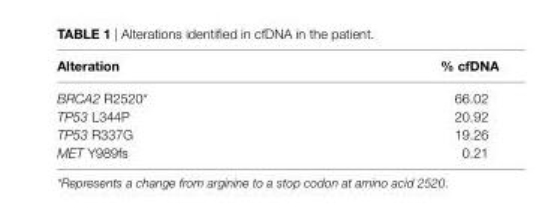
<table><thead><tr><td>alteration</td><td>% cfDNa</td></tr></thead><tbody><tr><td>BRCA2 R2520*</td><td>66.02</td></tr><tr><td>TP53 L344P</td><td>20.92</td></tr><tr><td>TP53 R337G</td><td>19.26</td></tr><tr><td>MET Y989fs</td><td>0.21</td></tr></tbody></table>